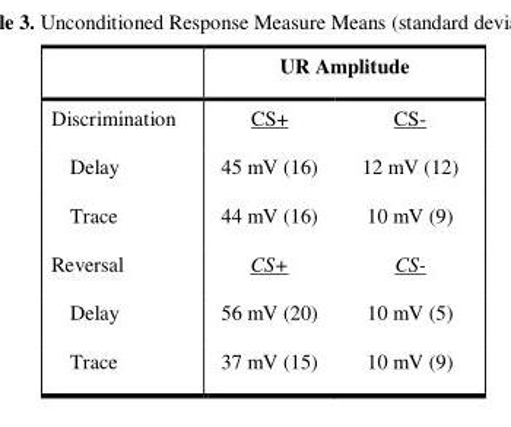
<table><thead><tr><td rowspan="2">Discrimination</td><td colspan="2">UR Amplitude</td></tr><tr><td>CS+</td><td>CS-</td></tr></thead><tbody><tr><td>Delay</td><td>45 mV (16)</td><td>12 mV (12)</td></tr><tr><td>Trace</td><td>44 mV (16)</td><td>10 mV (9)</td></tr><tr><td>Reversal</td><td>CS+</td><td>CS-</td></tr><tr><td>Delay</td><td>56 mV (20)</td><td>10 mV (5)</td></tr><tr><td>Trace</td><td>37 mV (15)</td><td>10 mV (9)</td></tr></tbody></table>